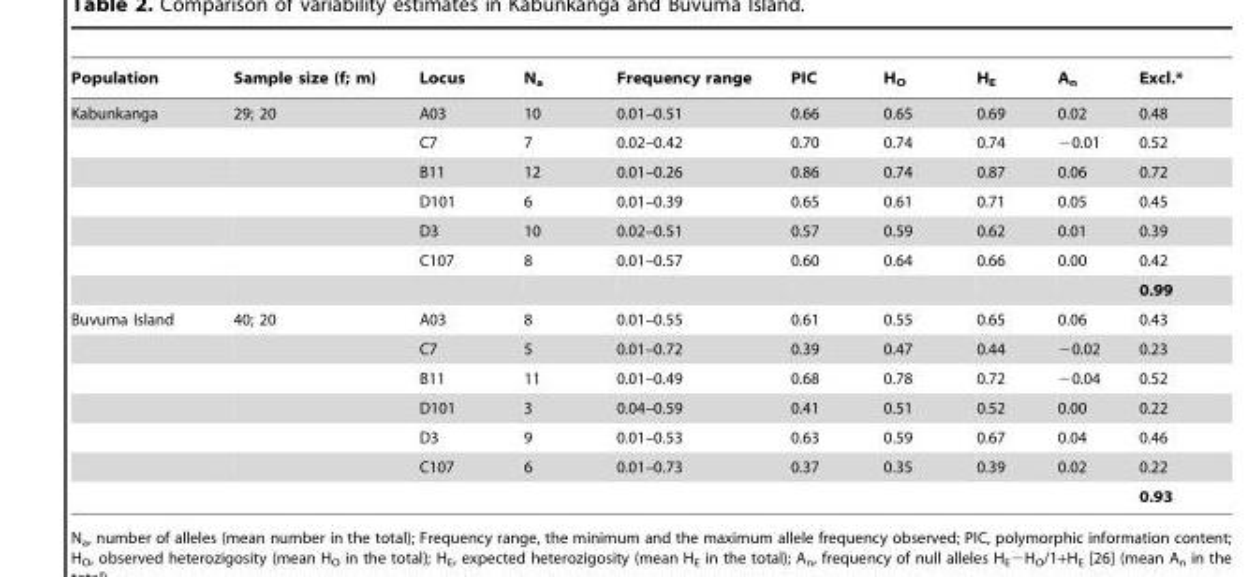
<table><thead><tr><td>Population</td><td>Sample size (f; m)</td><td>Locus</td><td>N<sub>a</sub></td><td>Frequency range</td><td>PIC</td><td>H<sub>O</sub></td><td>H<sub>E</sub></td><td>A<sub>n</sub></td><td>Excl.*</td></tr></thead><tbody><tr><td rowspan="7">Kabunkanga</td><td>29; 20</td><td>A03</td><td>10</td><td>0.01–0.51</td><td>0.66</td><td>0.65</td><td>0.69</td><td>0.02</td><td>0.48</td></tr><tr><td></td><td>C7</td><td>7</td><td>0.02–0.42</td><td>0.70</td><td>0.74</td><td>0.74</td><td>−0.01</td><td>0.52</td></tr><tr><td></td><td>B11</td><td>12</td><td>0.01–0.26</td><td>0.86</td><td>0.74</td><td>0.87</td><td>0.06</td><td>0.72</td></tr><tr><td></td><td>D101</td><td>6</td><td>0.01–0.39</td><td>0.65</td><td>0.61</td><td>0.71</td><td>0.05</td><td>0.45</td></tr><tr><td></td><td>D3</td><td>10</td><td>0.02–0.51</td><td>0.57</td><td>0.59</td><td>0.62</td><td>0.01</td><td>0.39</td></tr><tr><td></td><td>C107</td><td>8</td><td>0.01–0.57</td><td>0.60</td><td>0.64</td><td>0.66</td><td>0.00</td><td>0.42</td></tr><tr><td></td><td></td><td></td><td></td><td></td><td></td><td></td><td></td><td>0.99</td></tr><tr><td rowspan="7">Buvuma Island</td><td>40; 20</td><td>A03</td><td>8</td><td>0.01–0.55</td><td>0.61</td><td>0.55</td><td>0.65</td><td>0.06</td><td>0.43</td></tr><tr><td></td><td>C7</td><td>5</td><td>0.01–0.72</td><td>0.39</td><td>0.47</td><td>0.44</td><td>−0.02</td><td>0.23</td></tr><tr><td></td><td>B11</td><td>11</td><td>0.01–0.49</td><td>0.68</td><td>0.78</td><td>0.72</td><td>−0.04</td><td>0.52</td></tr><tr><td></td><td>D101</td><td>3</td><td>0.04–0.59</td><td>0.41</td><td>0.51</td><td>0.52</td><td>0.00</td><td>0.22</td></tr><tr><td></td><td>D3</td><td>9</td><td>0.01–0.53</td><td>0.63</td><td>0.59</td><td>0.67</td><td>0.04</td><td>0.46</td></tr><tr><td></td><td>C107</td><td>6</td><td>0.01–0.73</td><td>0.37</td><td>0.35</td><td>0.39</td><td>0.02</td><td>0.22</td></tr><tr><td></td><td></td><td></td><td></td><td></td><td></td><td></td><td></td><td>0.93</td></tr></tbody></table>